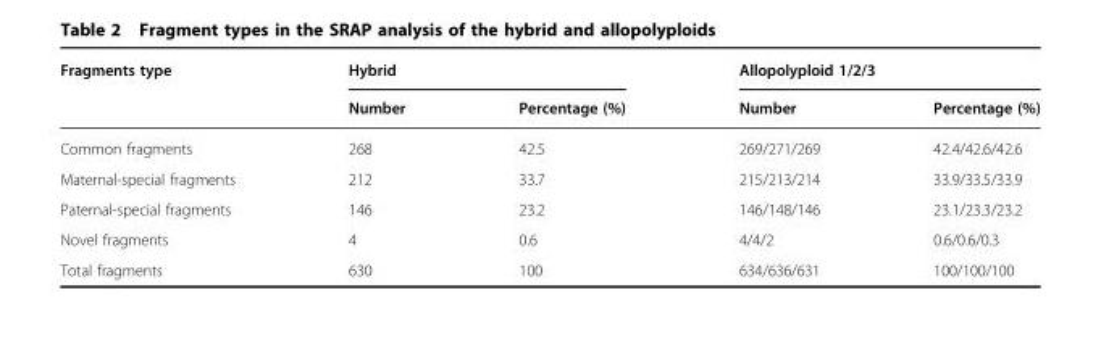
<table><thead><tr><td rowspan="2">Fragments type</td><td colspan="2">Hybrid</td><td colspan="2">Allopolyploid 1/2/3</td></tr><tr><td>Number</td><td>Percentage (%)</td><td>Number</td><td>Percentage (%)</td></tr></thead><tbody><tr><td>Common fragments</td><td>268</td><td>42.5</td><td>269/271/269</td><td>42.4/42.6/42.6</td></tr><tr><td>Maternal-special fragments</td><td>212</td><td>33.7</td><td>215/213/214</td><td>33.9/33.5/33.9</td></tr><tr><td>Paternal-special fragments</td><td>146</td><td>23.2</td><td>146/148/146</td><td>23.1/23.3/23.2</td></tr><tr><td>Novel fragments</td><td>4</td><td>0.6</td><td>4/4/2</td><td>0.6/0.6/0.3</td></tr><tr><td>Total fragments</td><td>630</td><td>100</td><td>634/636/631</td><td>100/100/100</td></tr></tbody></table>